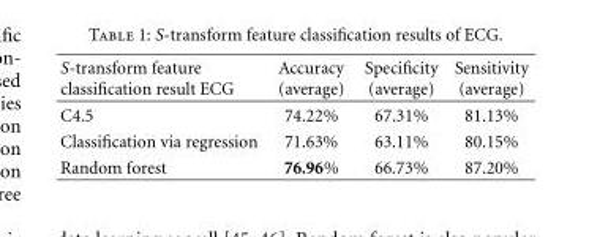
<table><thead><tr><td>S-transform feature classification result ECG</td><td>Accuracy (average)</td><td>Specificity (average)</td><td>Sensitivity (average)</td></tr></thead><tbody><tr><td>C4.5</td><td>74.22%</td><td>67.31%</td><td>81.13%</td></tr><tr><td>Classification via regression</td><td>71.63%</td><td>63.11%</td><td>80.15%</td></tr><tr><td>Random forest</td><td>76.96%</td><td>66.73%</td><td>87.20%</td></tr></tbody></table>